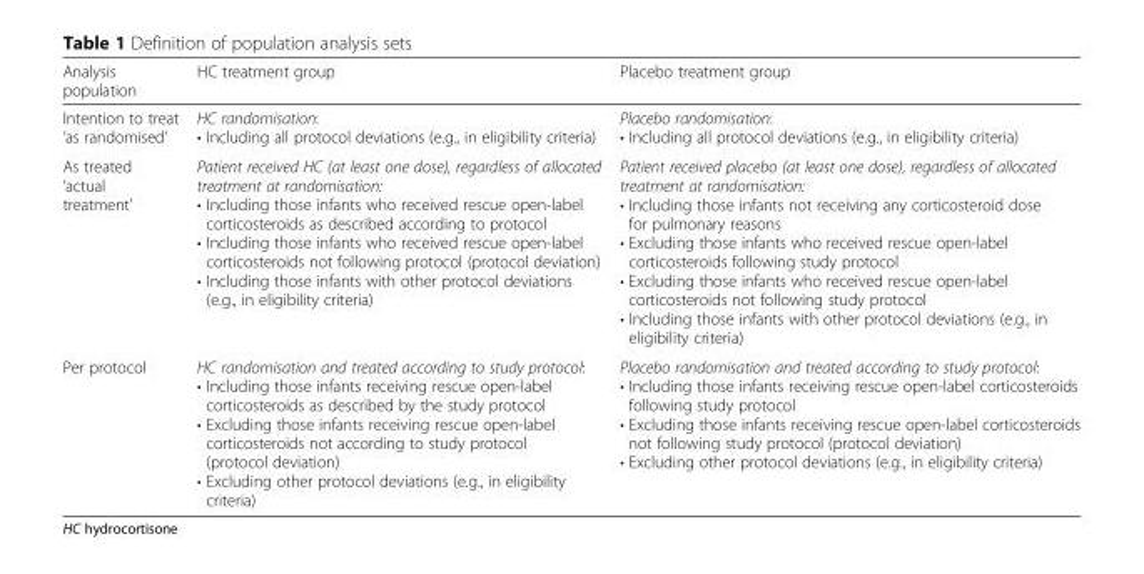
<table><thead><tr><td>Analysis population</td><td>HC treatment group</td><td>Placebo treatment group</td></tr></thead><tbody><tr><td>Intention to treat ‘as randomised’</td><td>HC randomisation: • Including all protocol deviations (e.g., in eligibility criteria)</td><td>Placebo randomisation: • Including all protocol deviations (e.g., in eligibility criteria)</td></tr><tr><td>As treated ‘actual treatment’</td><td>Patient received HC (at least one dose), regardless of allocated treatment at randomisation: • Including those infants who received rescue open-label corticosteroids as described according to protocol • Including those infants who received rescue open-label corticosteroids not following protocol (protocol deviation) • Including those infants with other protocol deviations (e.g., in eligibility criteria)</td><td>Patient received placebo (at least one dose), regardless of allocated treatment at randomisation: • Including those infants not receiving any corticosteroid dose for pulmonary reasons • Excluding those infants who received rescue open-label corticosteroids following study protocol • Excluding those infants who received rescue open-label corticosteroids not following study protocol • Including those infants with other protocol deviations (e.g., in eligibility criteria)</td></tr><tr><td>Per protocol</td><td>HC randomisation and treated according to study protocol: • Including those infants receiving rescue open-label corticosteroids as described by the study protocol • Excluding those infants receiving rescue open-label corticosteroids not according to study protocol (protocol deviation) • Excluding other protocol deviations (e.g., in eligibility criteria)</td><td>Placebo randomisation and treated according to study protocol: • Including those infants receiving rescue open-label corticosteroids following study protocol • Excluding those infants receiving rescue open-label corticosteroids not following study protocol (protocol deviation) • Excluding other protocol deviations (e.g., in eligibility criteria)</td></tr></tbody></table>